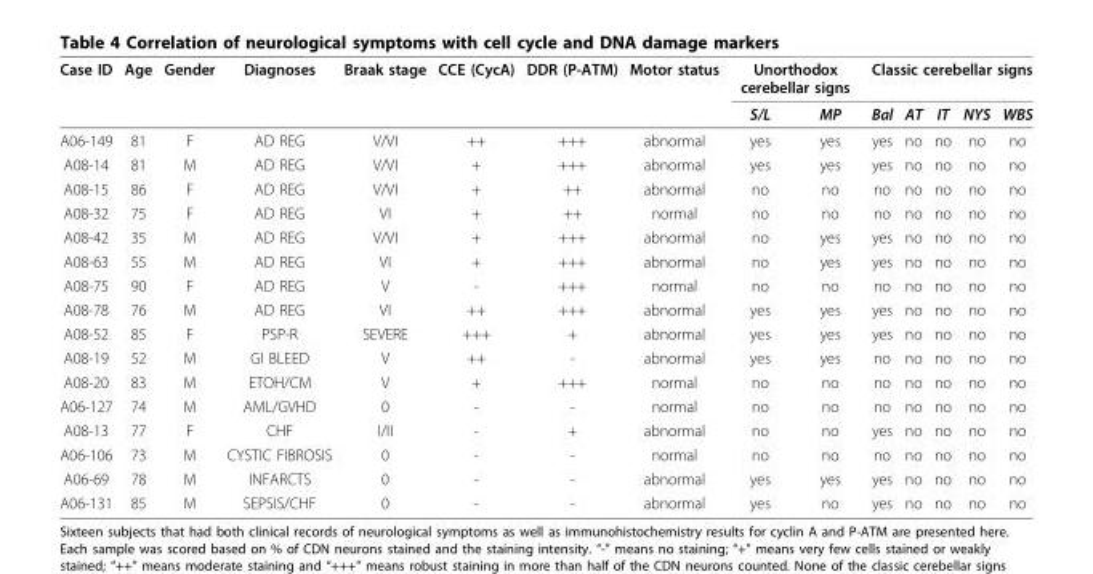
<table><thead><tr><td rowspan="2">Case ID</td><td rowspan="2">Age</td><td rowspan="2">Gender</td><td rowspan="2">Diagnoses</td><td rowspan="2">Braak stage</td><td rowspan="2">CCE (CycA)</td><td rowspan="2">DDR (P-ATM)</td><td rowspan="2">Motor status</td><td colspan="2">Unorthodox cerebellar signs</td><td colspan="5">Classic cerebellar signs</td></tr><tr><td>S/L</td><td>MP</td><td>Bal</td><td>AT</td><td>IT</td><td>NYS</td><td>WBS</td></tr></thead><tbody><tr><td>A06-149</td><td>81</td><td>F</td><td>AD REG</td><td>V/VI</td><td>++</td><td>+++</td><td>abnormal</td><td>yes</td><td>yes</td><td>yes</td><td>no</td><td>no</td><td>no</td><td>no</td></tr><tr><td>A08-14</td><td>81</td><td>M</td><td>AD REG</td><td>V/VI</td><td>+</td><td>+++</td><td>abnormal</td><td>yes</td><td>yes</td><td>yes</td><td>no</td><td>no</td><td>no</td><td>no</td></tr><tr><td>A08-15</td><td>86</td><td>F</td><td>AD REG</td><td>V/VI</td><td>+</td><td>++</td><td>abnormal</td><td>no</td><td>no</td><td>no</td><td>no</td><td>no</td><td>no</td><td>no</td></tr><tr><td>A08-32</td><td>75</td><td>F</td><td>AD REG</td><td>VI</td><td>+</td><td>++</td><td>normal</td><td>no</td><td>no</td><td>no</td><td>no</td><td>no</td><td>no</td><td>no</td></tr><tr><td>A08-42</td><td>35</td><td>M</td><td>AD REG</td><td>V/VI</td><td>+</td><td>+++</td><td>abnormal</td><td>no</td><td>yes</td><td>yes</td><td>no</td><td>no</td><td>no</td><td>no</td></tr><tr><td>A08-63</td><td>55</td><td>M</td><td>AD REG</td><td>VI</td><td>+</td><td>+++</td><td>abnormal</td><td>no</td><td>yes</td><td>yes</td><td>no</td><td>no</td><td>no</td><td>no</td></tr><tr><td>A08-75</td><td>90</td><td>F</td><td>AD REG</td><td>V</td><td>-</td><td>+++</td><td>normal</td><td>no</td><td>no</td><td>no</td><td>no</td><td>no</td><td>no</td><td>no</td></tr><tr><td>A08-78</td><td>76</td><td>M</td><td>AD REG</td><td>VI</td><td>++</td><td>+++</td><td>abnormal</td><td>yes</td><td>yes</td><td>yes</td><td>no</td><td>no</td><td>no</td><td>no</td></tr><tr><td>A08-52</td><td>85</td><td>F</td><td>PSP-R</td><td>SEVERE</td><td>+++</td><td>+</td><td>abnormal</td><td>yes</td><td>yes</td><td>yes</td><td>no</td><td>no</td><td>no</td><td>no</td></tr><tr><td>A08-19</td><td>52</td><td>M</td><td>GI BLEED</td><td>V</td><td>++</td><td>-</td><td>abnormal</td><td>yes</td><td>yes</td><td>no</td><td>no</td><td>no</td><td>no</td><td>no</td></tr><tr><td>A08-20</td><td>83</td><td>M</td><td>ETOH/CM</td><td>V</td><td>+</td><td>+++</td><td>normal</td><td>no</td><td>no</td><td>no</td><td>no</td><td>no</td><td>no</td><td>no</td></tr><tr><td>A06-127</td><td>74</td><td>M</td><td>AML/GVHD</td><td>0</td><td>-</td><td>-</td><td>normal</td><td>no</td><td>no</td><td>no</td><td>no</td><td>no</td><td>no</td><td>no</td></tr><tr><td>A08-13</td><td>77</td><td>F</td><td>CHF</td><td>I/II</td><td>-</td><td>+</td><td>abnormal</td><td>no</td><td>no</td><td>yes</td><td>no</td><td>no</td><td>no</td><td>no</td></tr><tr><td>A06-106</td><td>73</td><td>M</td><td>CYSTIC FIBROSIS</td><td>0</td><td>-</td><td>-</td><td>normal</td><td>no</td><td>no</td><td>no</td><td>no</td><td>no</td><td>no</td><td>no</td></tr><tr><td>A06-69</td><td>78</td><td>M</td><td>INFARCTS</td><td>0</td><td>-</td><td>-</td><td>abnormal</td><td>yes</td><td>yes</td><td>yes</td><td>no</td><td>no</td><td>no</td><td>no</td></tr><tr><td>A06-131</td><td>85</td><td>M</td><td>SEPSIS/CHF</td><td>0</td><td>-</td><td>-</td><td>abnormal</td><td>yes</td><td>no</td><td>yes</td><td>no</td><td>no</td><td>no</td><td>no</td></tr></tbody></table>